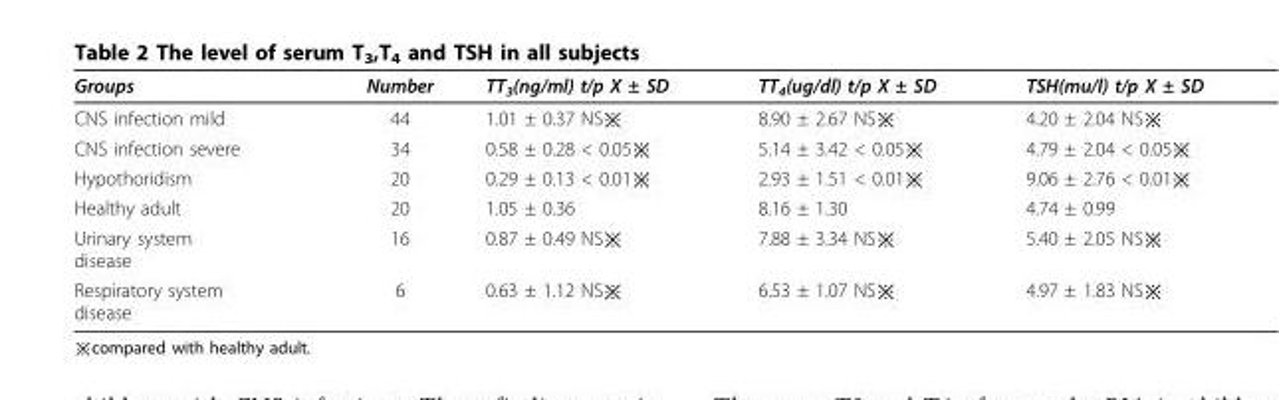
<table><thead><tr><td>Groups</td><td>Number</td><td>TT<sub>3</sub>(ng/ml) t/p X ± SD</td><td>TT<sub>4</sub>(ug/dl) t/p X ± SD</td><td>TSH(mu/l) t/p X ± SD</td></tr></thead><tbody><tr><td>CNS infection mild</td><td>44</td><td>1.01 ± 0.37 NS※</td><td>8.90 ± 2.67 NS※</td><td>4.20 ± 2.04 NS※</td></tr><tr><td>CNS infection severe</td><td>34</td><td>0.58 ± 0.28 &lt; 0.05※</td><td>5.14 ± 3.42 &lt; 0.05※</td><td>4.79 ± 2.04 &lt; 0.05※</td></tr><tr><td>Hypothoridism</td><td>20</td><td>0.29 ± 0.13 &lt; 0.01※</td><td>2.93 ± 1.51 &lt; 0.01※</td><td>9.06 ± 2.76 &lt; 0.01※</td></tr><tr><td>Healthy adult</td><td>20</td><td>1.05 ± 0.36</td><td>8.16 ± 1.30</td><td>4.74 ± 0.99</td></tr><tr><td>Urinary system disease</td><td>16</td><td>0.87 ± 0.49 NS※</td><td>7.88 ± 3.34 NS※</td><td>5.40 ± 2.05 NS※</td></tr><tr><td>Respiratory system disease</td><td>6</td><td>0.63 ± 1.12 NS※</td><td>6.53 ± 1.07 NS※</td><td>4.97 ± 1.83 NS※</td></tr></tbody></table>